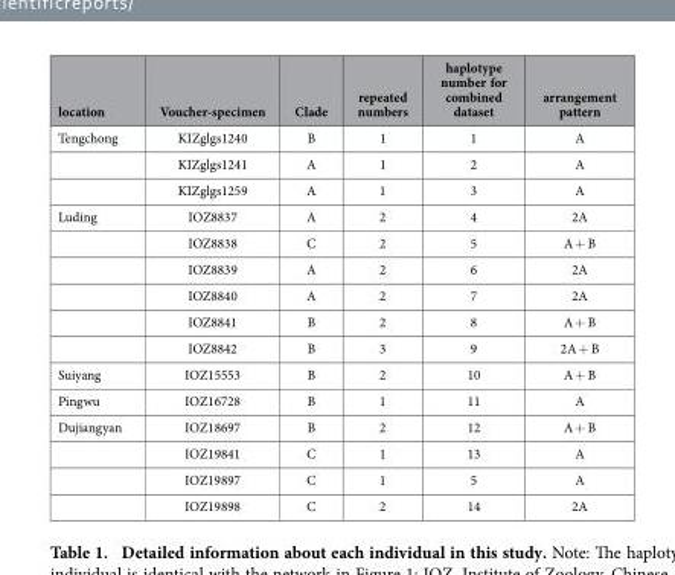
<table><thead><tr><td>location</td><td>Voucher-specimen</td><td>Clade</td><td>repeated numbers</td><td>haplotype number for combined dataset</td><td>arrangement pattern</td></tr></thead><tbody><tr><td rowspan="3">Tengchong</td><td>KIZglgs1240</td><td>B</td><td>1</td><td>1</td><td>A</td></tr><tr><td>KIZglgs1241</td><td>A</td><td>1</td><td>2</td><td>A</td></tr><tr><td>KIZglgs1259</td><td>A</td><td>1</td><td>3</td><td>A</td></tr><tr><td rowspan="6">Luding</td><td>IOZ8837</td><td>A</td><td>2</td><td>4</td><td>2A</td></tr><tr><td>IOZ8838</td><td>C</td><td>2</td><td>5</td><td>A + B</td></tr><tr><td>IOZ8839</td><td>A</td><td>2</td><td>6</td><td>2A</td></tr><tr><td>IOZ8840</td><td>A</td><td>2</td><td>7</td><td>2A</td></tr><tr><td>IOZ8841</td><td>B</td><td>2</td><td>8</td><td>A + B</td></tr><tr><td>IOZ8842</td><td>B</td><td>3</td><td>9</td><td>2A + B</td></tr><tr><td>Suiyang</td><td>IOZ15553</td><td>B</td><td>2</td><td>10</td><td>A + B</td></tr><tr><td>Pingwu</td><td>IOZ16728</td><td>B</td><td>1</td><td>11</td><td>A</td></tr><tr><td rowspan="4">Dujiangyan</td><td>IOZ18697</td><td>B</td><td>2</td><td>12</td><td>A + B</td></tr><tr><td>IOZ19841</td><td>C</td><td>1</td><td>13</td><td>A</td></tr><tr><td>IOZ19897</td><td>C</td><td>1</td><td>5</td><td>A</td></tr><tr><td>IOZ19898</td><td>C</td><td>2</td><td>14</td><td>2A</td></tr></tbody></table>